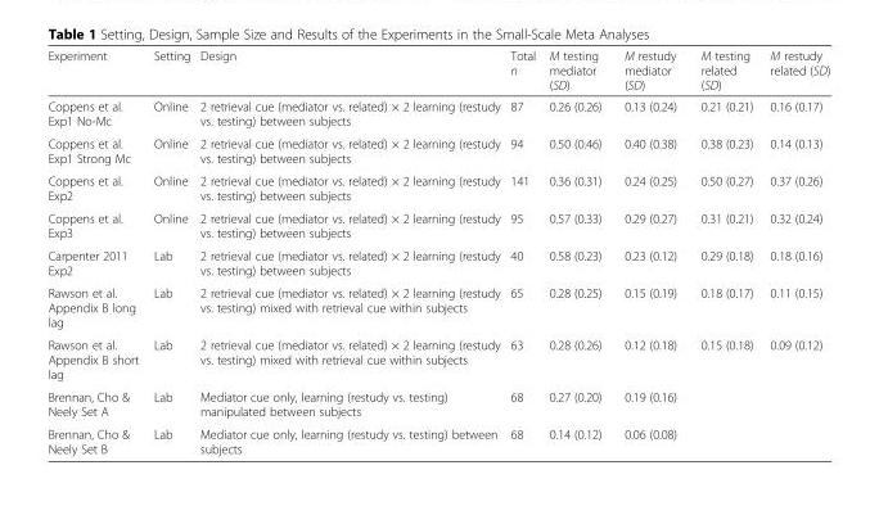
<table><thead><tr><td>Experiment</td><td>Setting</td><td>Design</td><td>Total n</td><td>M testing mediator (SD)</td><td>M restudy mediator (SD)</td><td>M testing related (SD)</td><td>M restudy related (SD)</td></tr></thead><tbody><tr><td>Coppens et al. Exp1 No-Mc</td><td>Online</td><td>2 retrieval cue (mediator vs. related) × 2 learning (restudy vs. testing) between subjects</td><td>87</td><td>0.26 (0.26)</td><td>0.13 (0.24)</td><td>0.21 (0.21)</td><td>0.16 (0.17)</td></tr><tr><td>Coppens et al. Exp1 Strong Mc</td><td>Online</td><td>2 retrieval cue (mediator vs. related) × 2 learning (restudy vs. testing) between subjects</td><td>94</td><td>0.50 (0.46)</td><td>0.40 (0.38)</td><td>0.38 (0.23)</td><td>0.14 (0.13)</td></tr><tr><td>Coppens et al. Exp2</td><td>Online</td><td>2 retrieval cue (mediator vs. related) × 2 learning (restudy vs. testing) between subjects</td><td>141</td><td>0.36 (0.31)</td><td>0.24 (0.25)</td><td>0.50 (0.27)</td><td>0.37 (0.26)</td></tr><tr><td>Coppens et al. Exp3</td><td>Online</td><td>2 retrieval cue (mediator vs. related) × 2 learning (restudy vs. testing) between subjects</td><td>95</td><td>0.57 (0.33)</td><td>0.29 (0.27)</td><td>0.31 (0.21)</td><td>0.32 (0.24)</td></tr><tr><td>Carpenter 2011 Exp2</td><td>Lab</td><td>2 retrieval cue (mediator vs. related) × 2 learning (restudy vs. testing) between subjects</td><td>40</td><td>0.58 (0.23)</td><td>0.23 (0.12)</td><td>0.29 (0.18)</td><td>0.18 (0.16)</td></tr><tr><td>Rawson et al. Appendix B long lag</td><td>Lab</td><td>2 retrieval cue (mediator vs. related) × 2 learning (restudy vs. testing) mixed with retrieval cue within subjects</td><td>65</td><td>0.28 (0.25)</td><td>0.15 (0.19)</td><td>0.18 (0.17)</td><td>0.11 (0.15)</td></tr><tr><td>Rawson et al. Appendix B short lag</td><td>Lab</td><td>2 retrieval cue (mediator vs. related) × 2 learning (restudy vs. testing) mixed with retrieval cue within subjects</td><td>63</td><td>0.28 (0.26)</td><td>0.12 (0.18)</td><td>0.15 (0.18)</td><td>0.09 (0.12)</td></tr><tr><td>Brennan, Cho &amp; Neely Set A</td><td>Lab</td><td>Mediator cue only, learning (restudy vs. testing) manipulated between subjects</td><td>68</td><td>0.27 (0.20)</td><td>0.19 (0.16)</td><td></td><td></td></tr><tr><td>Brennan, Cho &amp; Neely Set B</td><td>Lab</td><td>Mediator cue only, learning (restudy vs. testing) between subjects</td><td>68</td><td>0.14 (0.12)</td><td>0.06 (0.08)</td><td></td><td></td></tr></tbody></table>